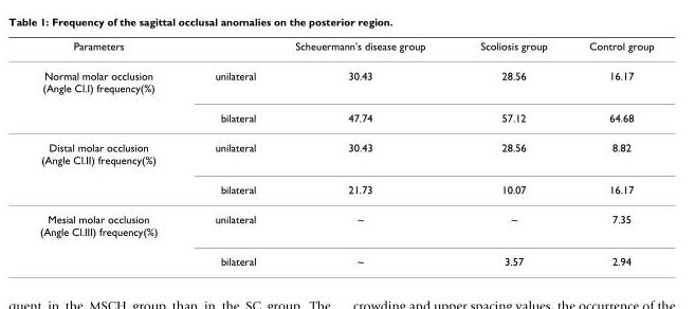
<table><thead><tr><td>Parameters</td><td></td><td>Scheuermann&#x27;s disease group</td><td>Scoliosis group</td><td>Control group</td></tr></thead><tbody><tr><td rowspan="2">Normal molar occlusion (Angle Cl.I) frequency(%)</td><td>unilateral</td><td>30.43</td><td>28.56</td><td>16.17</td></tr><tr><td>bilateral</td><td>47.74</td><td>57.12</td><td>64.68</td></tr><tr><td rowspan="2">Distal molar occlusion (Angle Cl.II) frequency(%)</td><td>unilateral</td><td>30.43</td><td>28.56</td><td>8.82</td></tr><tr><td>bilateral</td><td>21.73</td><td>10.07</td><td>16.17</td></tr><tr><td rowspan="2">Mesial molar occlusion (Angle Cl.III) frequency(%)</td><td>unilateral</td><td>~</td><td>~</td><td>7.35</td></tr><tr><td>bilateral</td><td>~</td><td>3.57</td><td>2.94</td></tr></tbody></table>